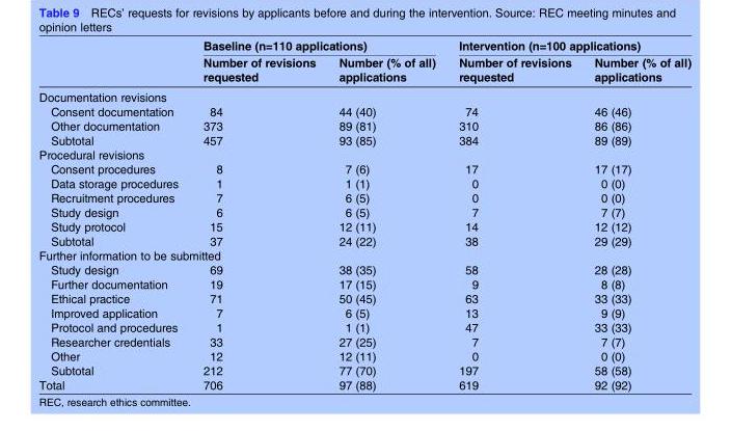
<table><thead><tr><td rowspan="2"></td><td colspan="2">Baseline (n=110 applications)</td><td colspan="2">Intervention (n=100 applications)</td></tr><tr><td>Number of revisions requested</td><td>Number (% of all) applications</td><td>Number of revisions requested</td><td>Number (% of all) applications</td></tr></thead><tbody><tr><td colspan="5">Documentation revisions</td></tr><tr><td>Consent documentation</td><td>84</td><td>44 (40)</td><td>74</td><td>46 (46)</td></tr><tr><td>Other documentation</td><td>373</td><td>89 (81)</td><td>310</td><td>86 (86)</td></tr><tr><td>Subtotal</td><td>457</td><td>93 (85)</td><td>384</td><td>89 (89)</td></tr><tr><td colspan="5">Procedural revisions</td></tr><tr><td>Consent procedures</td><td>8</td><td>7 (6)</td><td>17</td><td>17 (17)</td></tr><tr><td>Data storage procedures</td><td>1</td><td>1 (1)</td><td>0</td><td>0 (0)</td></tr><tr><td>Recruitment procedures</td><td>7</td><td>6 (5)</td><td>0</td><td>0 (0)</td></tr><tr><td>Study design</td><td>6</td><td>6 (5)</td><td>7</td><td>7 (7)</td></tr><tr><td>Study protocol</td><td>15</td><td>12 (11)</td><td>14</td><td>12 (12)</td></tr><tr><td>Subtotal</td><td>37</td><td>24 (22)</td><td>38</td><td>29 (29)</td></tr><tr><td colspan="5">Further information to be submitted</td></tr><tr><td>Study design</td><td>69</td><td>38 (35)</td><td>58</td><td>28 (28)</td></tr><tr><td>Further documentation</td><td>19</td><td>17 (15)</td><td>9</td><td>8 (8)</td></tr><tr><td>Ethical practice</td><td>71</td><td>50 (45)</td><td>63</td><td>33 (33)</td></tr><tr><td>Improved application</td><td>7</td><td>6 (5)</td><td>13</td><td>9 (9)</td></tr><tr><td>Protocol and procedures</td><td>1</td><td>1 (1)</td><td>47</td><td>33 (33)</td></tr><tr><td>Researcher credentials</td><td>33</td><td>27 (25)</td><td>7</td><td>7 (7)</td></tr><tr><td>Other</td><td>12</td><td>12 (11)</td><td>0</td><td>0 (0)</td></tr><tr><td>Subtotal</td><td>212</td><td>77 (70)</td><td>197</td><td>58 (58)</td></tr><tr><td>Total</td><td>706</td><td>97 (88)</td><td>619</td><td>92 (92)</td></tr></tbody></table>